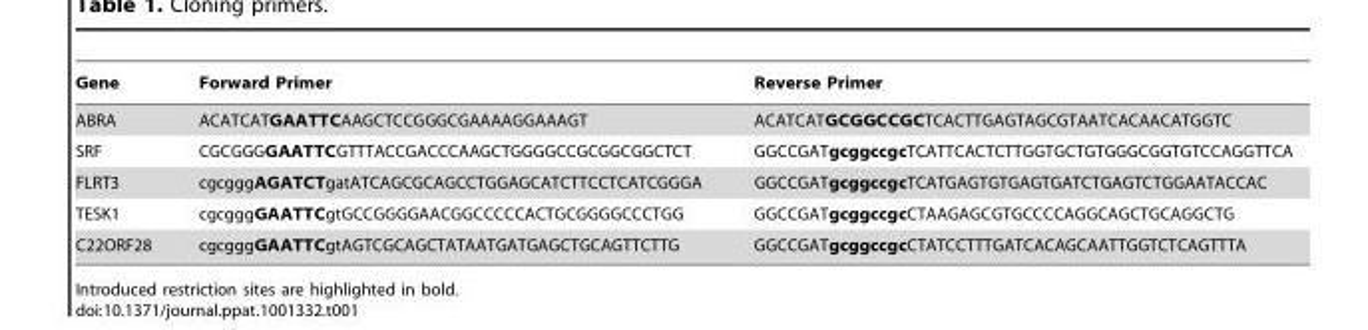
<table><thead><tr><td>Gene</td><td>Forward Primer</td><td>Reverse Primer</td></tr></thead><tbody><tr><td>ABRA</td><td>ACATCATGAATTCAAGCTCCGGGCGAAAAGGAAAGT</td><td>ACATCATGCGGCCGCTCACTTGAGTAGCGTAATCACAACATGGTC</td></tr><tr><td>SRF</td><td>CGCGGGGAATTCGTTTACCGACCCAAGCTGGGGCCGCGGCGGCTCT</td><td>GGCCGATgcggccgcTCATTCACTCTTGGTGCTGTGGGCGGTGTCCAGGTTCA</td></tr><tr><td>FLRT3</td><td>cgcgggAGATCTgatATCAGCGCAGCCTGGAGCATCTTCCTCATCGGGA</td><td>GGCCGATgcggccgcTCATGAGTGTGAGTGATCTGAGTCTGGAATACCAC</td></tr><tr><td>TESK1</td><td>cgcgggGAATTCgtGCCGGGGAACGGCCCCCACTGCGGGGCCCTGG</td><td>GGCCGATgcggccgcCTAAGAGCGTGCCCCAGGCAGCTGCAGGCTG</td></tr><tr><td>C22ORF28</td><td>cgcgggGAATTCgtAGTCGCAGCTATAATGATGAGCTGCAGTTCTTG</td><td>GGCCGATgcggccgcCTATCCTTTGATCACAGCAATTGGTCTCAGTTTA</td></tr></tbody></table>